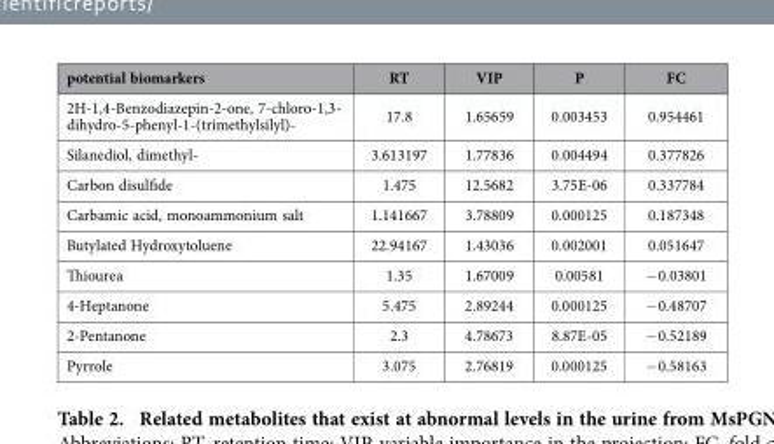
<table><thead><tr><td>potential biomarkers</td><td>RT</td><td>VIP</td><td>P</td><td>FC</td></tr></thead><tbody><tr><td>2H-1,4-Benzodiazepin-2-one, 7-chloro-1,3- dihydro-5-phenyl-1-(trimethylsilyl)-</td><td>17.8</td><td>1.65659</td><td>0.003453</td><td>0.954461</td></tr><tr><td>Silanediol, dimethyl-</td><td>3.613197</td><td>1.77836</td><td>0.004494</td><td>0.377826</td></tr><tr><td>Carbon disulfide</td><td>1.475</td><td>12.5682</td><td>3.75E-06</td><td>0.337784</td></tr><tr><td>Carbamic acid, monoammonium salt</td><td>1.141667</td><td>3.78809</td><td>0.000125</td><td>0.187348</td></tr><tr><td>Butylated Hydroxytoluene</td><td>22.94167</td><td>1.43036</td><td>0.002001</td><td>0.051647</td></tr><tr><td>Thiourea</td><td>1.35</td><td>1.67009</td><td>0.00581</td><td>− 0.03801</td></tr><tr><td>4-Heptanone</td><td>5.475</td><td>2.89244</td><td>0.000125</td><td>− 0.48707</td></tr><tr><td>2-Pentanone</td><td>2.3</td><td>4.78673</td><td>8.87E-05</td><td>− 0.52189</td></tr><tr><td>Pyrrole</td><td>3.075</td><td>2.76819</td><td>0.000125</td><td>− 0.58163</td></tr></tbody></table>